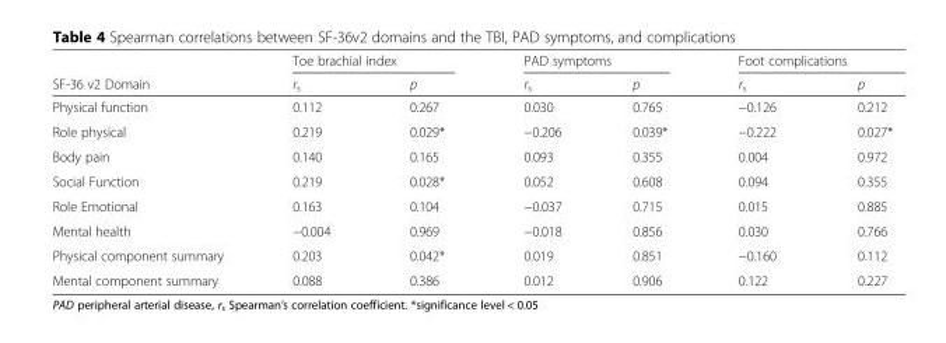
<table><thead><tr><td rowspan="2">SF-36 v2 Domain</td><td colspan="2">Toe brachial index</td><td colspan="2">PAD symptoms</td><td colspan="2">Foot complications</td></tr><tr><td>r<sub>s</sub></td><td>p</td><td>r<sub>s</sub></td><td>p</td><td>r<sub>s</sub></td><td>p</td></tr></thead><tbody><tr><td>Physical function</td><td>0.112</td><td>0.267</td><td>0.030</td><td>0.765</td><td>−0.126</td><td>0.212</td></tr><tr><td>Role physical</td><td>0.219</td><td>0.029*</td><td>−0.206</td><td>0.039*</td><td>−0.222</td><td>0.027*</td></tr><tr><td>Body pain</td><td>0.140</td><td>0.165</td><td>0.093</td><td>0.355</td><td>0.004</td><td>0.972</td></tr><tr><td>Social Function</td><td>0.219</td><td>0.028*</td><td>0.052</td><td>0.608</td><td>0.094</td><td>0.355</td></tr><tr><td>Role Emotional</td><td>0.163</td><td>0.104</td><td>−0.037</td><td>0.715</td><td>0.015</td><td>0.885</td></tr><tr><td>Mental health</td><td>−0.004</td><td>0.969</td><td>−0.018</td><td>0.856</td><td>0.030</td><td>0.766</td></tr><tr><td>Physical component summary</td><td>0.203</td><td>0.042*</td><td>0.019</td><td>0.851</td><td>−0.160</td><td>0.112</td></tr><tr><td>Mental component summary</td><td>0.088</td><td>0.386</td><td>0.012</td><td>0.906</td><td>0.122</td><td>0.227</td></tr></tbody></table>